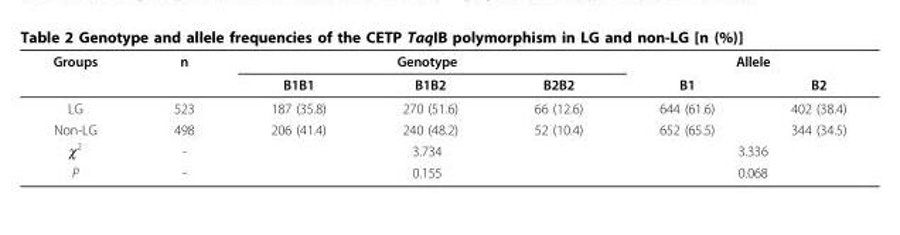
<table><thead><tr><td rowspan="2">Groups</td><td rowspan="2">n</td><td colspan="3">Genotype</td><td colspan="2">Allele</td></tr><tr><td>B1B1</td><td>B1B2</td><td>B2B2</td><td>B1</td><td>B2</td></tr></thead><tbody><tr><td>LG</td><td>523</td><td>187 (35.8)</td><td>270 (51.6)</td><td>66 (12.6)</td><td>644 (61.6)</td><td>402 (38.4)</td></tr><tr><td>Non-LG</td><td>498</td><td>206 (41.4)</td><td>240 (48.2)</td><td>52 (10.4)</td><td>652 (65.5)</td><td>344 (34.5)</td></tr><tr><td>χ<sup>2</sup></td><td>-</td><td colspan="3">3.734</td><td colspan="2">3.336</td></tr><tr><td>P</td><td>-</td><td colspan="3">0.155</td><td colspan="2">0.068</td></tr></tbody></table>